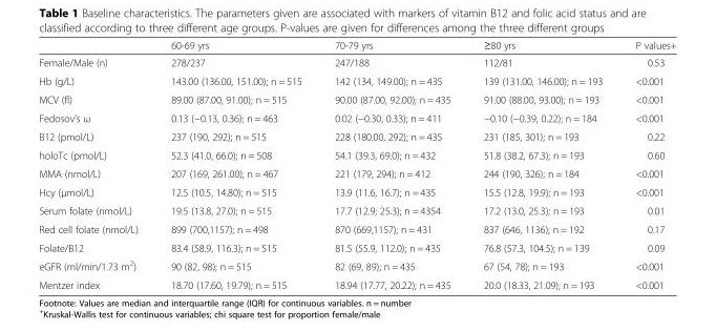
<table><thead><tr><td></td><td>60-69 yrs</td><td>70-79 yrs</td><td>≥80 yrs</td><td>P values+</td></tr></thead><tbody><tr><td>Female/Male (n)</td><td>278/237</td><td>247/188</td><td>112/81</td><td>0.53</td></tr><tr><td>Hb (g/L)</td><td>143.00 (136.00, 151.00); n = 515</td><td>142 (134, 149.00); n = 435</td><td>139 (131.00, 146.00); n = 193</td><td>&lt;0.001</td></tr><tr><td>MCV (fl)</td><td>89.00 (87.00, 91.00); n = 515</td><td>90.00 (87.00, 92.00); n = 435</td><td>91.00 (88.00, 93.00); n = 193</td><td>&lt;0.001</td></tr><tr><td>Fedosov’s ω</td><td>0.13 (−0.13, 0.36); n = 463</td><td>0.02 (−0.30, 0.33); n = 411</td><td>−0.10 (−0.39, 0.22); n = 184</td><td>&lt;0.001</td></tr><tr><td>B12 (pmol/L)</td><td>237 (190, 292); n = 515</td><td>228 (180.00, 292); n = 435</td><td>231 (185, 301); n = 193</td><td>0.22</td></tr><tr><td>holoTc (pmol/L)</td><td>52.3 (41.0, 66.0); n = 508</td><td>54.1 (39.3, 69.0); n = 432</td><td>51.8 (38.2, 67.3); n = 193</td><td>0.60</td></tr><tr><td>MMA (nmol/L)</td><td>207 (169, 261.00); n = 467</td><td>221 (179, 294); n = 412</td><td>244 (190, 326); n = 184</td><td>&lt;0.001</td></tr><tr><td>Hcy (μmol/L)</td><td>12.5 (10.5, 14.80); n = 515</td><td>13.9 (11.6, 16.7); n = 435</td><td>15.5 (12.8, 19.9); n = 193</td><td>&lt;0.001</td></tr><tr><td>Serum folate (nmol/L)</td><td>19.5 (13.8, 27.0); n = 515</td><td>17.7 (12.9; 25.3); n = 4354</td><td>17.2 (13.0, 25.3); n = 193</td><td>0.01</td></tr><tr><td>Red cell folate (nmol/L)</td><td>899 (700,1157); n = 498</td><td>870 (669,1157); n = 431</td><td>837 (646, 1136); n = 192</td><td>0.17</td></tr><tr><td>Folate/B12</td><td>83.4 (58.9, 116.3); n = 515</td><td>81.5 (55.9, 112.0); n = 435</td><td>76.8 (57.3, 104.5); n = 139</td><td>0.09</td></tr><tr><td>eGFR (ml/min/1.73 m<sup>2</sup>)</td><td>90 (82, 98); n = 515</td><td>82 (69, 89); n = 435</td><td>67 (54, 78); n = 193</td><td>&lt;0.001</td></tr><tr><td>Mentzer index</td><td>18.70 (17.60, 19.79); n = 515</td><td>18.94 (17.77, 20.22); n = 435</td><td>20.0 (18.33, 21.09); n = 193</td><td>&lt;0.001</td></tr></tbody></table>